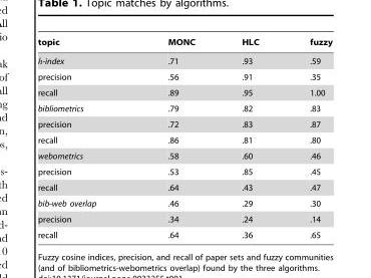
<table><thead><tr><td>topic</td><td>MONC</td><td>HLC</td><td>fuzzy</td></tr></thead><tbody><tr><td>h-index</td><td>.71</td><td>.93</td><td>.59</td></tr><tr><td>precision</td><td>.56</td><td>.91</td><td>.35</td></tr><tr><td>recall</td><td>.89</td><td>.95</td><td>1.00</td></tr><tr><td>bibliometrics</td><td>.79</td><td>.82</td><td>.83</td></tr><tr><td>precision</td><td>.72</td><td>.83</td><td>.87</td></tr><tr><td>recall</td><td>.86</td><td>.81</td><td>.80</td></tr><tr><td>webometrics</td><td>.58</td><td>.60</td><td>.46</td></tr><tr><td>precision</td><td>.53</td><td>.85</td><td>.45</td></tr><tr><td>recall</td><td>.64</td><td>.43</td><td>.47</td></tr><tr><td>bib-web overlap</td><td>.46</td><td>.29</td><td>.30</td></tr><tr><td>precision</td><td>.34</td><td>.24</td><td>.14</td></tr><tr><td>recall</td><td>.64</td><td>.36</td><td>.65</td></tr></tbody></table>